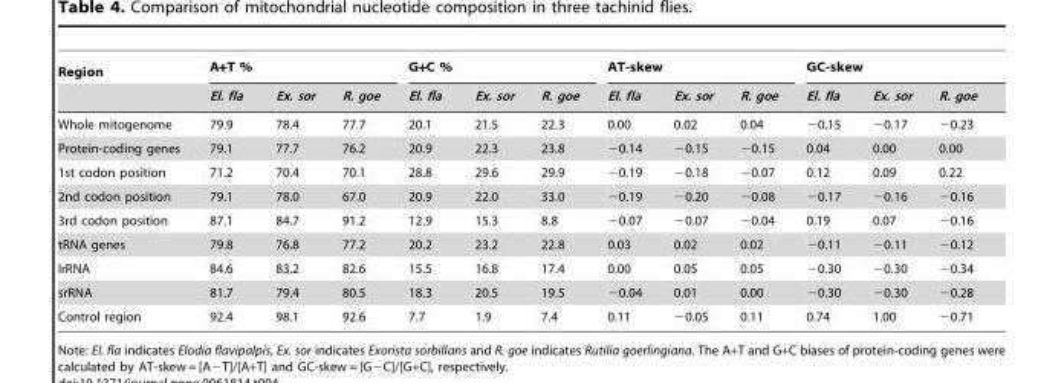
<table><thead><tr><td rowspan="2">Region</td><td colspan="3">A+T %</td><td colspan="3">G+C %</td><td colspan="3">AT-skew</td><td colspan="3">GC-skew</td></tr><tr><td>El. fla</td><td>Ex. sor</td><td>R. goe</td><td>El. fla</td><td>Ex. sor</td><td>R. goe</td><td>El. fla</td><td>Ex. sor</td><td>R. goe</td><td>El. fla</td><td>Ex. sor</td><td>R. goe</td></tr></thead><tbody><tr><td>Whole mitogenome</td><td>79.9</td><td>78.4</td><td>77.7</td><td>20.1</td><td>21.5</td><td>22.3</td><td>0.00</td><td>0.02</td><td>0.04</td><td>−0.15</td><td>−0.17</td><td>−0.23</td></tr><tr><td>Protein-coding genes</td><td>79.1</td><td>77.7</td><td>76.2</td><td>20.9</td><td>22.3</td><td>23.8</td><td>−0.14</td><td>−0.15</td><td>−0.15</td><td>0.04</td><td>0.00</td><td>0.00</td></tr><tr><td>1st codon position</td><td>71.2</td><td>70.4</td><td>70.1</td><td>28.8</td><td>29.6</td><td>29.9</td><td>−0.19</td><td>−0.18</td><td>−0.07</td><td>0.12</td><td>0.09</td><td>0.22</td></tr><tr><td>2nd codon position</td><td>79.1</td><td>78.0</td><td>67.0</td><td>20.9</td><td>22.0</td><td>33.0</td><td>−0.19</td><td>−0.20</td><td>−0.08</td><td>−0.17</td><td>−0.16</td><td>−0.16</td></tr><tr><td>3rd codon position</td><td>87.1</td><td>84.7</td><td>91.2</td><td>12.9</td><td>15.3</td><td>8.8</td><td>−0.07</td><td>−0.07</td><td>−0.04</td><td>0.19</td><td>0.07</td><td>−0.16</td></tr><tr><td>tRNA genes</td><td>79.8</td><td>76.8</td><td>77.2</td><td>20.2</td><td>23.2</td><td>22.8</td><td>0.03</td><td>0.02</td><td>0.02</td><td>−0.11</td><td>−0.11</td><td>−0.12</td></tr><tr><td>lrRNA</td><td>84.6</td><td>83.2</td><td>82.6</td><td>15.5</td><td>16.8</td><td>17.4</td><td>0.00</td><td>0.05</td><td>0.05</td><td>−0.30</td><td>−0.30</td><td>−0.34</td></tr><tr><td>srRNA</td><td>81.7</td><td>79.4</td><td>80.5</td><td>18.3</td><td>20.5</td><td>19.5</td><td>−0.04</td><td>0.01</td><td>0.00</td><td>−0.30</td><td>−0.30</td><td>−0.28</td></tr><tr><td>Control region</td><td>92.4</td><td>98.1</td><td>92.6</td><td>7.7</td><td>1.9</td><td>7.4</td><td>0.11</td><td>−0.05</td><td>0.11</td><td>0.74</td><td>1.00</td><td>−0.71</td></tr></tbody></table>